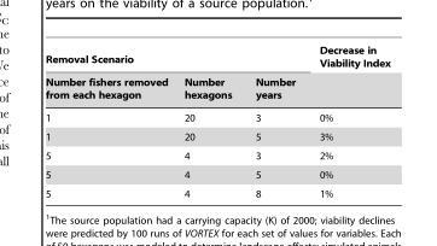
<table><thead><tr><td colspan="3">Removal Scenario</td><td rowspan="2">Decrease in Viability Index</td></tr><tr><td>Number fishers removed from each hexagon</td><td>Number hexagons</td><td>Number years</td></tr></thead><tbody><tr><td>1</td><td>20</td><td>3</td><td>0%</td></tr><tr><td>1</td><td>20</td><td>5</td><td>3%</td></tr><tr><td>5</td><td>4</td><td>3</td><td>2%</td></tr><tr><td>5</td><td>4</td><td>5</td><td>0%</td></tr><tr><td>5</td><td>4</td><td>8</td><td>1%</td></tr></tbody></table>